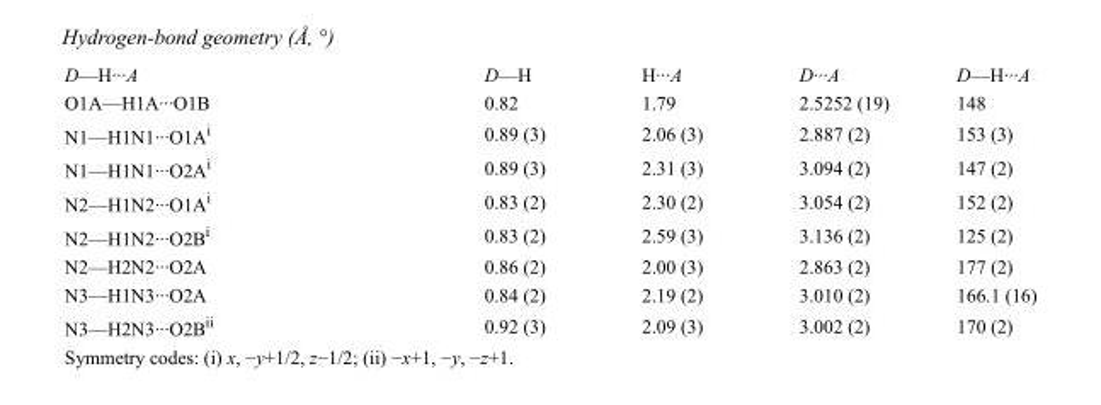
<table><tbody><tr><td>D—H···A</td><td>D—H</td><td>H···A</td><td>D···A</td><td>D—H···A</td></tr><tr><td>O1A—H1A···O1B</td><td>0.82</td><td>1.79</td><td>2.5252 (19)</td><td>148</td></tr><tr><td>N1—H1N1···O1A<sup>i</sup></td><td>0.89 (3)</td><td>2.06 (3)</td><td>2.887 (2)</td><td>153 (3)</td></tr><tr><td>N1—H1N1···O2A<sup>i</sup></td><td>0.89 (3)</td><td>2.31 (3)</td><td>3.094 (2)</td><td>147 (2)</td></tr><tr><td>N2—H1N2···O1A<sup>i</sup></td><td>0.83 (2)</td><td>2.30 (2)</td><td>3.054 (2)</td><td>152 (2)</td></tr><tr><td>N2—H1N2···O2B<sup>i</sup></td><td>0.83 (2)</td><td>2.59 (3)</td><td>3.136 (2)</td><td>125 (2)</td></tr><tr><td>N2—H2N2···O2A</td><td>0.86 (2)</td><td>2.00 (3)</td><td>2.863 (2)</td><td>177 (2)</td></tr><tr><td>N3—H1N3···O2A</td><td>0.84 (2)</td><td>2.19 (2)</td><td>3.010 (2)</td><td>166.1 (16)</td></tr><tr><td>N3—H2N3···O2B<sup>ii</sup></td><td>0.92 (3)</td><td>2.09 (3)</td><td>3.002 (2)</td><td>170 (2)</td></tr></tbody></table>